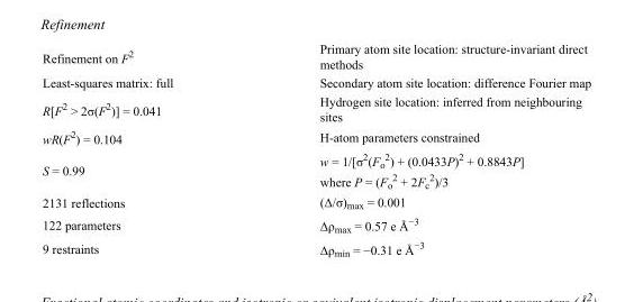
<table><tbody><tr><td>Refinement on F<sup>2</sup></td><td>Primary atom site location: structure-invariant direct methods</td></tr><tr><td>Least-squares matrix: full</td><td>Secondary atom site location: difference Fourier map</td></tr><tr><td>R[F<sup>2</sup> &gt; 2σ(F<sup>2</sup>)] = 0.041</td><td>Hydrogen site location: inferred from neighbouring sites</td></tr><tr><td>wR(F<sup>2</sup>) = 0.104</td><td>H-atom parameters constrained</td></tr><tr><td>S = 0.99</td><td>w = 1/[σ<sup>2</sup>(F<sub>o</sub> <sup>2</sup>) + (0.0433P)<sup>2</sup> + 0.8843P] where P = (F<sub>o</sub> <sup>2</sup> + 2F<sub>c</sub> <sup>2</sup>)/3</td></tr><tr><td>2131 reflections</td><td>(Δ/σ)<sub>max</sub> = 0.001</td></tr><tr><td>122 parameters</td><td>Δρ<sub>max</sub> = 0.57 e Å<sup>−3</sup></td></tr><tr><td>9 restraints</td><td>Δρ<sub>min</sub> = −0.31 e Å<sup>−3</sup></td></tr></tbody></table>